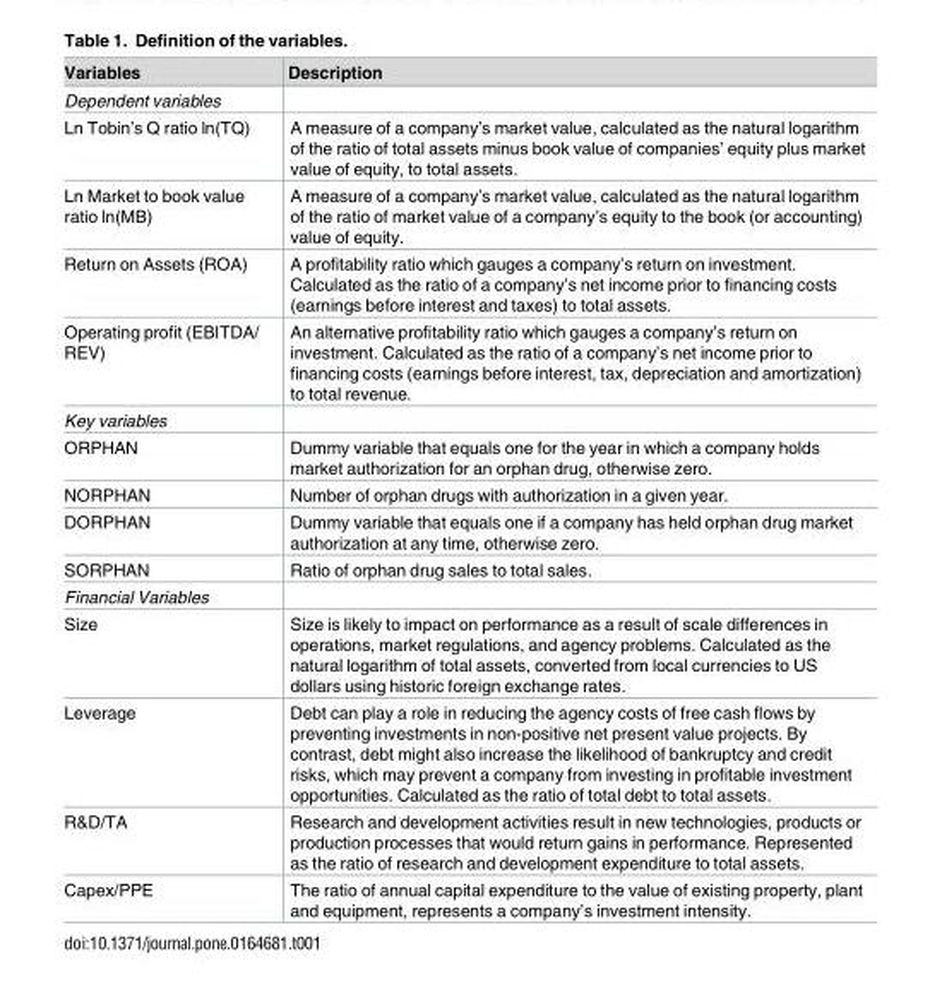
<table><thead><tr><td>Variables</td><td>Description</td></tr></thead><tbody><tr><td colspan="2">Dependent variables</td></tr><tr><td>Ln Tobin’s Q ratio ln(TQ)</td><td>A measure of a company’s market value, calculated as the natural logarithm of the ratio of total assets minus book value of companies’ equity plus market value of equity, to total assets.</td></tr><tr><td>Ln Market to book value ratio ln(MB)</td><td>A measure of a company’s market value, calculated as the natural logarithm of the ratio of market value of a company’s equity to the book (or accounting) value of equity.</td></tr><tr><td>Return on Assets (ROA)</td><td>A profitability ratio which gauges a company’s return on investment. Calculated as the ratio of a company’s net income prior to financing costs (earnings before interest and taxes) to total assets.</td></tr><tr><td>Operating profit (EBITDA/ REV)</td><td>An alternative profitability ratio which gauges a company’s return on investment. Calculated as the ratio of a company’s net income prior to financing costs (earnings before interest, tax, depreciation and amortization) to total revenue.</td></tr><tr><td colspan="2">Key variables</td></tr><tr><td>ORPHAN</td><td>Dummy variable that equals one for the year in which a company holds market authorization for an orphan drug, otherwise zero.</td></tr><tr><td>NORPHAN</td><td>Number of orphan drugs with authorization in a given year.</td></tr><tr><td>DORPHAN</td><td>Dummy variable that equals one if a company has held orphan drug market authorization at any time, otherwise zero.</td></tr><tr><td>SORPHAN</td><td>Ratio of orphan drug sales to total sales.</td></tr><tr><td colspan="2">Financial Variables</td></tr><tr><td>Size</td><td>Size is likely to impact on performance as a result of scale differences in operations, market regulations, and agency problems. Calculated as the natural logarithm of total assets, converted from local currencies to US dollars using historic foreign exchange rates.</td></tr><tr><td>Leverage</td><td>Debt can play a role in reducing the agency costs of free cash flows by preventing investments in non-positive net present value projects. By contrast, debt might also increase the likelihood of bankruptcy and credit risks, which may prevent a company from investing in profitable investment opportunities. Calculated as the ratio of total debt to total assets.</td></tr><tr><td>R&amp;D/TA</td><td>Research and development activities result in new technologies, products or production processes that would return gains in performance. Represented as the ratio of research and development expenditure to total assets.</td></tr><tr><td>Capex/PPE</td><td>The ratio of annual capital expenditure to the value of existing property, plant and equipment, represents a company’s investment intensity.</td></tr></tbody></table>